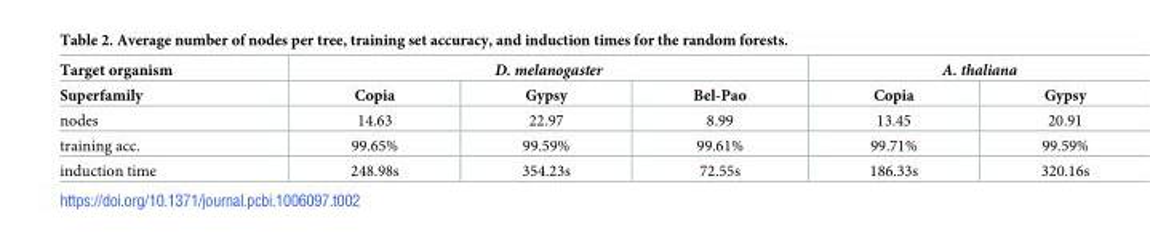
<table><thead><tr><td rowspan="2">Target organism Superfamily</td><td colspan="3">D. melanogaster</td><td colspan="2">A. thaliana</td></tr><tr><td>Copia</td><td>Gypsy</td><td>Bel-Pao</td><td>Copia</td><td>Gypsy</td></tr></thead><tbody><tr><td>nodes</td><td>14.63</td><td>22.97</td><td>8.99</td><td>13.45</td><td>20.91</td></tr><tr><td>training acc.</td><td>99.65%</td><td>99.59%</td><td>99.61%</td><td>99.71%</td><td>99.59%</td></tr><tr><td>induction time</td><td>248.98s</td><td>354.23s</td><td>72.55s</td><td>186.33s</td><td>320.16s</td></tr></tbody></table>